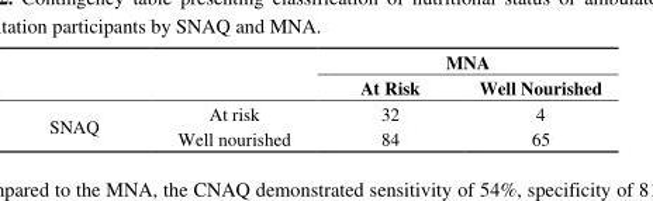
<table><thead><tr><td rowspan="2"></td><td rowspan="2"></td><td colspan="2">MNA</td></tr><tr><td>At Risk</td><td>Well Nourished</td></tr></thead><tbody><tr><td rowspan="2">SNAQ</td><td>At risk</td><td>32</td><td>4</td></tr><tr><td>Well nourished</td><td>84</td><td>65</td></tr></tbody></table>